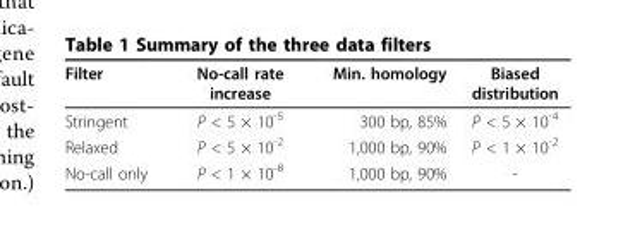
<table><thead><tr><td>Filter</td><td>No-call rate increase</td><td>Min. homology</td><td>Biased distribution</td></tr></thead><tbody><tr><td>Stringent</td><td>P &lt; 5 × 10<sup>-5</sup></td><td>300 bp, 85%</td><td>P &lt; 5 × 10<sup>-4</sup></td></tr><tr><td>Relaxed</td><td>P &lt; 5 × 10<sup>-2</sup></td><td>1,000 bp, 90%</td><td>P &lt; 1 × 10<sup>-2</sup></td></tr><tr><td>No-call only</td><td>P &lt; 1 × 10<sup>-8</sup></td><td>1,000 bp, 90%</td><td>-</td></tr></tbody></table>